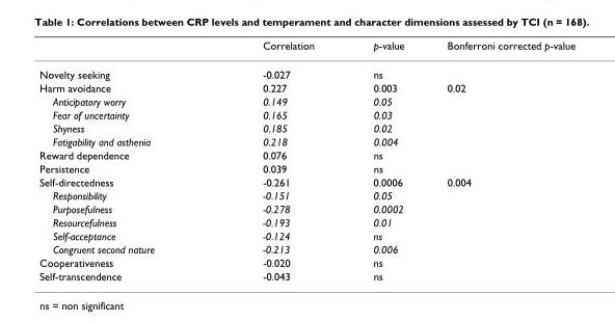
<table><thead><tr><td></td><td>Correlation</td><td>p-value</td><td>Bonferroni corrected p-value</td></tr></thead><tbody><tr><td>Novelty seeking</td><td>-0.027</td><td>ns</td><td></td></tr><tr><td>Harm avoidance</td><td>0.227</td><td>0.003</td><td>0.02</td></tr><tr><td>Anticipatory worry</td><td>0.149</td><td>0.05</td><td></td></tr><tr><td>Fear of uncertainty</td><td>0.165</td><td>0.03</td><td></td></tr><tr><td>Shyness</td><td>0.185</td><td>0.02</td><td></td></tr><tr><td>Fatigability and asthenia</td><td>0.218</td><td>0.004</td><td></td></tr><tr><td>Reward dependence</td><td>0.076</td><td>ns</td><td></td></tr><tr><td>Persistence</td><td>0.039</td><td>ns</td><td></td></tr><tr><td>Self-directedness</td><td>-0.261</td><td>0.0006</td><td>0.004</td></tr><tr><td>Responsibility</td><td>-0.151</td><td>0.05</td><td></td></tr><tr><td>Purposefulness</td><td>-0.278</td><td>0.0002</td><td></td></tr><tr><td>Resourcefulness</td><td>-0.193</td><td>0.01</td><td></td></tr><tr><td>Self-acceptance</td><td>-0.124</td><td>ns</td><td></td></tr><tr><td>Congruent second nature</td><td>-0.213</td><td>0.006</td><td></td></tr><tr><td>Cooperativeness</td><td>-0.020</td><td>ns</td><td></td></tr><tr><td>Self-transcendence</td><td>-0.043</td><td>ns</td><td></td></tr></tbody></table>